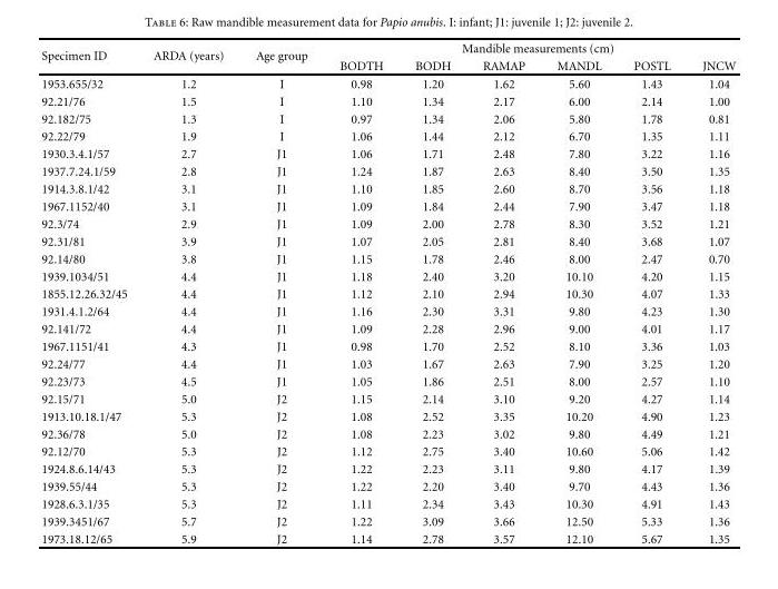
<table><thead><tr><td rowspan="2">Specimen ID</td><td rowspan="2">ARDA (years)</td><td rowspan="2">Age group</td><td colspan="6">Mandible measurements (cm)</td></tr><tr><td>BODTH</td><td>BODH</td><td>RAMAP</td><td>MANDL</td><td>POSTL</td><td>JNCW</td></tr></thead><tbody><tr><td>1953.655/32</td><td>1.2</td><td>I</td><td>0.98</td><td>1.20</td><td>1.62</td><td>5.60</td><td>1.43</td><td>1.04</td></tr><tr><td>92.21/76</td><td>1.5</td><td>I</td><td>1.10</td><td>1.34</td><td>2.17</td><td>6.00</td><td>2.14</td><td>1.00</td></tr><tr><td>92.182/75</td><td>1.3</td><td>I</td><td>0.97</td><td>1.34</td><td>2.06</td><td>5.80</td><td>1.78</td><td>0.81</td></tr><tr><td>92.22/79</td><td>1.9</td><td>I</td><td>1.06</td><td>1.44</td><td>2.12</td><td>6.70</td><td>1.35</td><td>1.11</td></tr><tr><td>1930.3.4.1/57</td><td>2.7</td><td>J1</td><td>1.06</td><td>1.71</td><td>2.48</td><td>7.80</td><td>3.22</td><td>1.16</td></tr><tr><td>1937.7.24.1/59</td><td>2.8</td><td>J1</td><td>1.24</td><td>1.87</td><td>2.63</td><td>8.40</td><td>3.50</td><td>1.35</td></tr><tr><td>1914.3.8.1/42</td><td>3.1</td><td>J1</td><td>1.10</td><td>1.85</td><td>2.60</td><td>8.70</td><td>3.56</td><td>1.18</td></tr><tr><td>1967.1152/40</td><td>3.1</td><td>J1</td><td>1.09</td><td>1.84</td><td>2.44</td><td>7.90</td><td>3.47</td><td>1.18</td></tr><tr><td>92.3/74</td><td>2.9</td><td>J1</td><td>1.09</td><td>2.00</td><td>2.78</td><td>8.30</td><td>3.52</td><td>1.21</td></tr><tr><td>92.31/81</td><td>3.9</td><td>J1</td><td>1.07</td><td>2.05</td><td>2.81</td><td>8.40</td><td>3.68</td><td>1.07</td></tr><tr><td>92.14/80</td><td>3.8</td><td>J1</td><td>1.15</td><td>1.78</td><td>2.46</td><td>8.00</td><td>2.47</td><td>0.70</td></tr><tr><td>1939.1034/51</td><td>4.4</td><td>J1</td><td>1.18</td><td>2.40</td><td>3.20</td><td>10.10</td><td>4.20</td><td>1.15</td></tr><tr><td>1855.12.26.32/45</td><td>4.4</td><td>J1</td><td>1.12</td><td>2.10</td><td>2.94</td><td>10.30</td><td>4.07</td><td>1.33</td></tr><tr><td>1931.4.1.2/64</td><td>4.4</td><td>J1</td><td>1.16</td><td>2.30</td><td>3.31</td><td>9.80</td><td>4.23</td><td>1.30</td></tr><tr><td>92.141/72</td><td>4.4</td><td>J1</td><td>1.09</td><td>2.28</td><td>2.96</td><td>9.00</td><td>4.01</td><td>1.17</td></tr><tr><td>1967.1151/41</td><td>4.3</td><td>J1</td><td>0.98</td><td>1.70</td><td>2.52</td><td>8.10</td><td>3.36</td><td>1.03</td></tr><tr><td>92.24/77</td><td>4.4</td><td>J1</td><td>1.03</td><td>1.67</td><td>2.63</td><td>7.90</td><td>3.25</td><td>1.20</td></tr><tr><td>92.23/73</td><td>4.5</td><td>J1</td><td>1.05</td><td>1.86</td><td>2.51</td><td>8.00</td><td>2.57</td><td>1.10</td></tr><tr><td>92.15/71</td><td>5.0</td><td>J2</td><td>1.15</td><td>2.14</td><td>3.10</td><td>9.20</td><td>4.27</td><td>1.14</td></tr><tr><td>1913.10.18.1/47</td><td>5.3</td><td>J2</td><td>1.08</td><td>2.52</td><td>3.35</td><td>10.20</td><td>4.90</td><td>1.23</td></tr><tr><td>92.36/78</td><td>5.0</td><td>J2</td><td>1.08</td><td>2.23</td><td>3.02</td><td>9.80</td><td>4.49</td><td>1.21</td></tr><tr><td>92.12/70</td><td>5.3</td><td>J2</td><td>1.12</td><td>2.75</td><td>3.40</td><td>10.60</td><td>5.06</td><td>1.42</td></tr><tr><td>1924.8.6.14/43</td><td>5.3</td><td>J2</td><td>1.22</td><td>2.23</td><td>3.11</td><td>9.80</td><td>4.17</td><td>1.39</td></tr><tr><td>1939.55/44</td><td>5.3</td><td>J2</td><td>1.22</td><td>2.20</td><td>3.40</td><td>9.70</td><td>4.43</td><td>1.36</td></tr><tr><td>1928.6.3.1/35</td><td>5.3</td><td>J2</td><td>1.11</td><td>2.34</td><td>3.43</td><td>10.30</td><td>4.91</td><td>1.43</td></tr><tr><td>1939.3451/67</td><td>5.7</td><td>J2</td><td>1.22</td><td>3.09</td><td>3.66</td><td>12.50</td><td>5.33</td><td>1.36</td></tr><tr><td>1973.18.12/65</td><td>5.9</td><td>J2</td><td>1.14</td><td>2.78</td><td>3.57</td><td>12.10</td><td>5.67</td><td>1.35</td></tr></tbody></table>